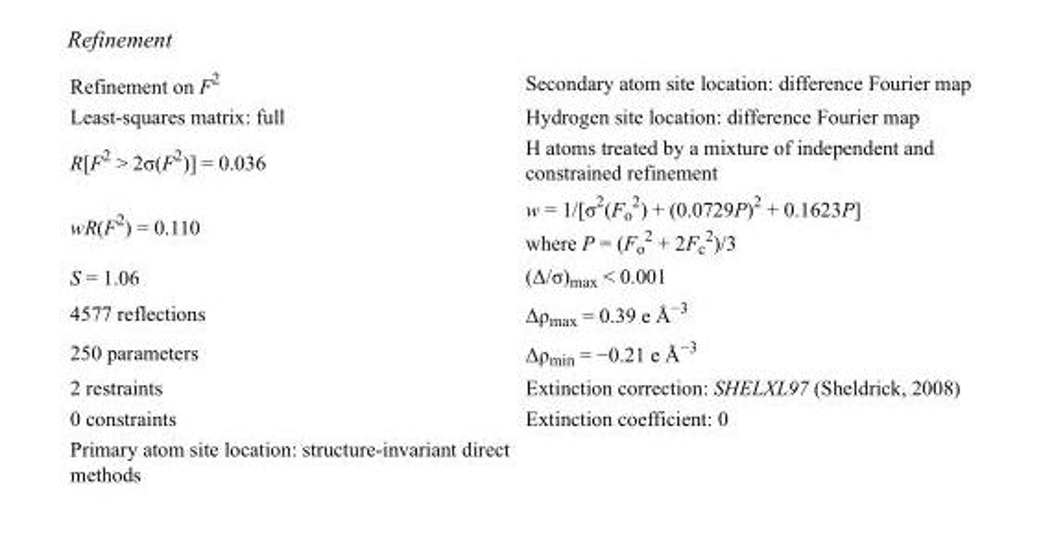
<table><tbody><tr><td>Refinement on F<sup>2</sup></td><td>Secondary atom site location: difference Fourier map</td></tr><tr><td>Least-squares matrix: full</td><td>Hydrogen site location: difference Fourier map</td></tr><tr><td>R[F<sup>2</sup> &gt; 2σ(F<sup>2</sup>)] = 0.036</td><td>H atoms treated by a mixture of independent and constrained refinement</td></tr><tr><td>wR(F<sup>2</sup>) = 0.110</td><td>w = 1/[σ<sup>2</sup>(F<sub>o</sub> <sup>2</sup>) + (0.0729P)<sup>2</sup> + 0.1623P] where P = (F<sub>o</sub> <sup>2</sup> + 2F<sub>c</sub> <sup>2</sup>)/3</td></tr><tr><td>S = 1.06</td><td>(Δ/σ)<sub>max</sub> &lt; 0.001</td></tr><tr><td>4577 reflections</td><td>Δρ<sub>max</sub> = 0.39 e Å<sup>−3</sup></td></tr><tr><td>250 parameters</td><td>Δρ<sub>min</sub> = −0.21 e Å<sup>−3</sup></td></tr><tr><td>2 restraints</td><td>Extinction correction: SHELXL97 (Sheldrick, 2008)</td></tr><tr><td>0 constraints</td><td>Extinction coefficient: 0</td></tr><tr><td>Primary atom site location: structure-invariant direct methods</td><td></td></tr></tbody></table>